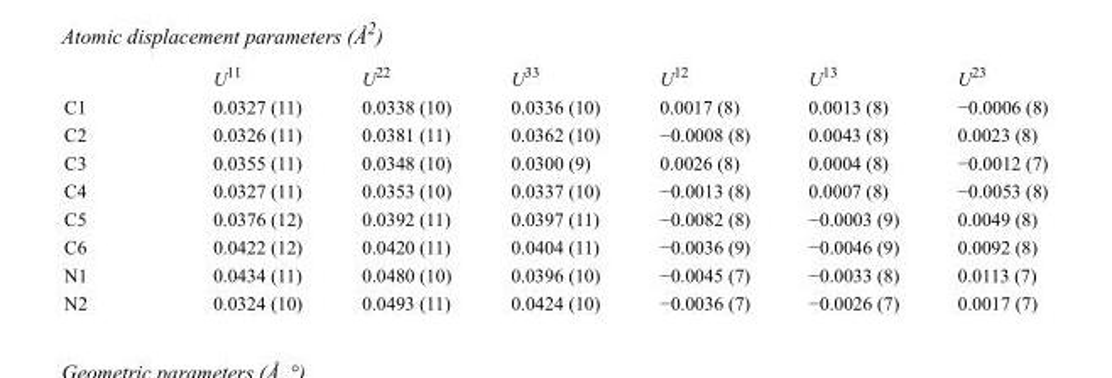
<table><thead><tr><td></td><td>U<sup>11</sup></td><td>U<sup>22</sup></td><td>U<sup>33</sup></td><td>U<sup>12</sup></td><td>U<sup>13</sup></td><td>U<sup>23</sup></td></tr></thead><tbody><tr><td>C1</td><td>0.0327 (11)</td><td>0.0338 (10)</td><td>0.0336 (10)</td><td>0.0017 (8)</td><td>0.0013 (8)</td><td>−0.0006 (8)</td></tr><tr><td>C2</td><td>0.0326 (11)</td><td>0.0381 (11)</td><td>0.0362 (10)</td><td>−0.0008 (8)</td><td>0.0043 (8)</td><td>0.0023 (8)</td></tr><tr><td>C3</td><td>0.0355 (11)</td><td>0.0348 (10)</td><td>0.0300 (9)</td><td>0.0026 (8)</td><td>0.0004 (8)</td><td>−0.0012 (7)</td></tr><tr><td>C4</td><td>0.0327 (11)</td><td>0.0353 (10)</td><td>0.0337 (10)</td><td>−0.0013 (8)</td><td>0.0007 (8)</td><td>−0.0053 (8)</td></tr><tr><td>C5</td><td>0.0376 (12)</td><td>0.0392 (11)</td><td>0.0397 (11)</td><td>−0.0082 (8)</td><td>−0.0003 (9)</td><td>0.0049 (8)</td></tr><tr><td>C6</td><td>0.0422 (12)</td><td>0.0420 (11)</td><td>0.0404 (11)</td><td>−0.0036 (9)</td><td>−0.0046 (9)</td><td>0.0092 (8)</td></tr><tr><td>N1</td><td>0.0434 (11)</td><td>0.0480 (10)</td><td>0.0396 (10)</td><td>−0.0045 (7)</td><td>−0.0033 (8)</td><td>0.0113 (7)</td></tr><tr><td>N2</td><td>0.0324 (10)</td><td>0.0493 (11)</td><td>0.0424 (10)</td><td>−0.0036 (7)</td><td>−0.0026 (7)</td><td>0.0017 (7)</td></tr></tbody></table>